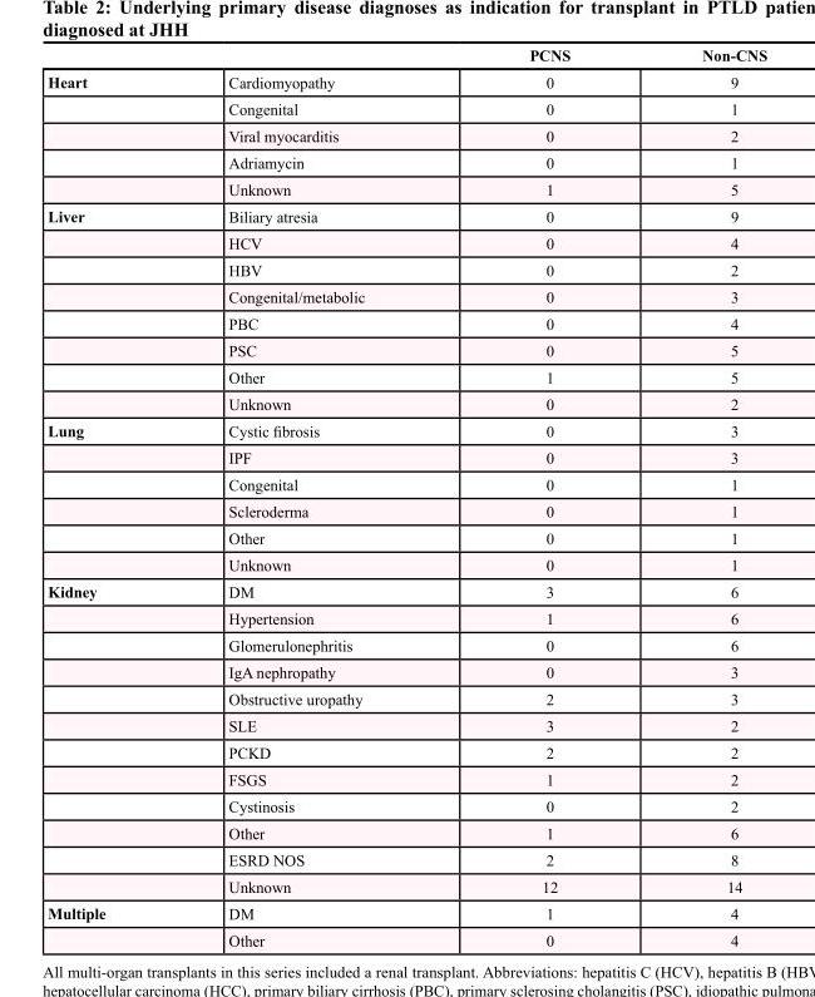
<table><thead><tr><td></td><td></td><td>PCNS</td><td>Non-CNS</td></tr></thead><tbody><tr><td rowspan="5">Heart</td><td>Cardiomyopathy</td><td>0</td><td>9</td></tr><tr><td>Congenital</td><td>0</td><td>1</td></tr><tr><td>Viral myocarditis</td><td>0</td><td>2</td></tr><tr><td>Adriamycin</td><td>0</td><td>1</td></tr><tr><td>Unknown</td><td>1</td><td>5</td></tr><tr><td rowspan="8">Liver</td><td>Biliary atresia</td><td>0</td><td>9</td></tr><tr><td>HCV</td><td>0</td><td>4</td></tr><tr><td>HBV</td><td>0</td><td>2</td></tr><tr><td>Congenital/metabolic</td><td>0</td><td>3</td></tr><tr><td>PBC</td><td>0</td><td>4</td></tr><tr><td>PSC</td><td>0</td><td>5</td></tr><tr><td>Other</td><td>1</td><td>5</td></tr><tr><td>Unknown</td><td>0</td><td>2</td></tr><tr><td rowspan="6">Lung</td><td>Cystic fibrosis</td><td>0</td><td>3</td></tr><tr><td>IPF</td><td>0</td><td>3</td></tr><tr><td>Congenital</td><td>0</td><td>1</td></tr><tr><td>Scleroderma</td><td>0</td><td>1</td></tr><tr><td>Other</td><td>0</td><td>1</td></tr><tr><td>Unknown</td><td>0</td><td>1</td></tr><tr><td rowspan="12">Kidney</td><td>DM</td><td>3</td><td>6</td></tr><tr><td>Hypertension</td><td>1</td><td>6</td></tr><tr><td>Glomerulonephritis</td><td>0</td><td>6</td></tr><tr><td>IgA nephropathy</td><td>0</td><td>3</td></tr><tr><td>Obstructive uropathy</td><td>2</td><td>3</td></tr><tr><td>SLE</td><td>3</td><td>2</td></tr><tr><td>PCKD</td><td>2</td><td>2</td></tr><tr><td>FSGS</td><td>1</td><td>2</td></tr><tr><td>Cystinosis</td><td>0</td><td>2</td></tr><tr><td>Other</td><td>1</td><td>6</td></tr><tr><td>ESRD NOS</td><td>2</td><td>8</td></tr><tr><td>Unknown</td><td>12</td><td>14</td></tr><tr><td rowspan="2">Multiple</td><td>DM</td><td>1</td><td>4</td></tr><tr><td>Other</td><td>0</td><td>4</td></tr></tbody></table>